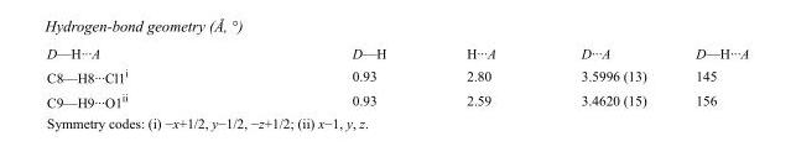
<table><tbody><tr><td>D—H···A</td><td>D—H</td><td>H···A</td><td>D···A</td><td>D—H···A</td></tr><tr><td>C8—H8···Cl1<sup>i</sup></td><td>0.93</td><td>2.80</td><td>3.5996 (13)</td><td>145</td></tr><tr><td>C9—H9···O1<sup>ii</sup></td><td>0.93</td><td>2.59</td><td>3.4620 (15)</td><td>156</td></tr></tbody></table>